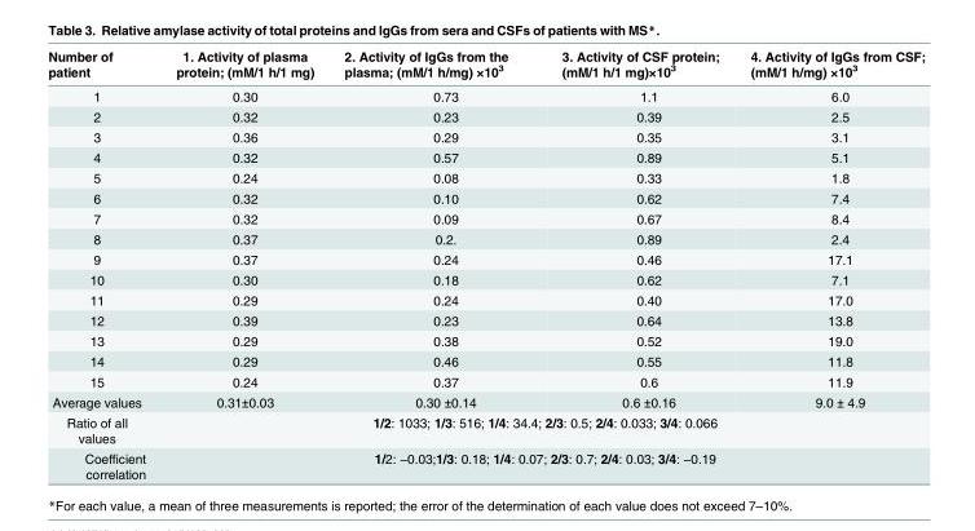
<table><thead><tr><td>Number of patient</td><td>1. Activity of plasma protein; (mM/1 h/1 mg)</td><td>2. Activity of IgGs from the plasma; (mM/1 h/mg) ×10<sup>3</sup></td><td>3. Activity of CSF protein; (mM/1 h/1 mg)×10<sup>3</sup></td><td>4. Activity of IgGs from CSF; (mM/1 h/mg) ×10<sup>3</sup></td></tr></thead><tbody><tr><td>1</td><td>0.30</td><td>0.73</td><td>1.1</td><td>6.0</td></tr><tr><td>2</td><td>0.32</td><td>0.23</td><td>0.39</td><td>2.5</td></tr><tr><td>3</td><td>0.36</td><td>0.29</td><td>0.35</td><td>3.1</td></tr><tr><td>4</td><td>0.32</td><td>0.57</td><td>0.89</td><td>5.1</td></tr><tr><td>5</td><td>0.24</td><td>0.08</td><td>0.33</td><td>1.8</td></tr><tr><td>6</td><td>0.32</td><td>0.10</td><td>0.62</td><td>7.4</td></tr><tr><td>7</td><td>0.32</td><td>0.09</td><td>0.67</td><td>8.4</td></tr><tr><td>8</td><td>0.37</td><td>0.2.</td><td>0.89</td><td>2.4</td></tr><tr><td>9</td><td>0.37</td><td>0.24</td><td>0.46</td><td>17.1</td></tr><tr><td>10</td><td>0.30</td><td>0.18</td><td>0.62</td><td>7.1</td></tr><tr><td>11</td><td>0.29</td><td>0.24</td><td>0.40</td><td>17.0</td></tr><tr><td>12</td><td>0.39</td><td>0.23</td><td>0.64</td><td>13.8</td></tr><tr><td>13</td><td>0.29</td><td>0.38</td><td>0.52</td><td>19.0</td></tr><tr><td>14</td><td>0.29</td><td>0.46</td><td>0.55</td><td>11.8</td></tr><tr><td>15</td><td>0.24</td><td>0.37</td><td>0.6</td><td>11.9</td></tr><tr><td>Average values</td><td>0.31±0.03</td><td>0.30 ±0.14</td><td>0.6 ±0.16</td><td>9.0 ± 4.9</td></tr><tr><td>Ratio of all values</td><td colspan="4">1/2: 1033; 1/3: 516; 1/4: 34.4; 2/3: 0.5; 2/4: 0.033; 3/4: 0.066</td></tr><tr><td>Coefficient correlation</td><td colspan="4">1/2: −0.03;1/3: 0.18; 1/4: 0.07; 2/3: 0.7; 2/4: 0.03; 3/4: −0.19</td></tr></tbody></table>